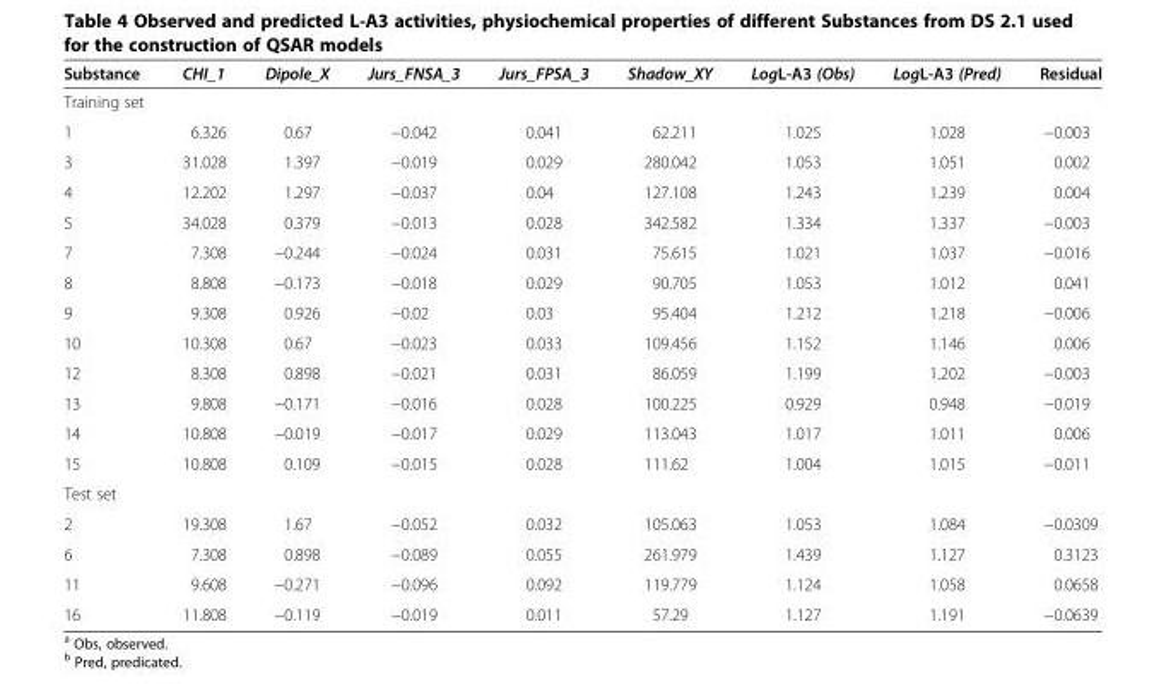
<table><thead><tr><td>Substance</td><td>CHI_1</td><td>Dipole_X</td><td>Jurs_FNSA_3</td><td>Jurs_FPSA_3</td><td>Shadow_XY</td><td>LogL-A3 (Obs)</td><td>LogL-A3 (Pred)</td><td>Residual</td></tr></thead><tbody><tr><td colspan="9">Training set</td></tr><tr><td>1</td><td>6.326</td><td>0.67</td><td>−0.042</td><td>0.041</td><td>62.211</td><td>1.025</td><td>1.028</td><td>−0.003</td></tr><tr><td>3</td><td>31.028</td><td>1.397</td><td>−0.019</td><td>0.029</td><td>280.042</td><td>1.053</td><td>1.051</td><td>0.002</td></tr><tr><td>4</td><td>12.202</td><td>1.297</td><td>−0.037</td><td>0.04</td><td>127.108</td><td>1.243</td><td>1.239</td><td>0.004</td></tr><tr><td>5</td><td>34.028</td><td>0.379</td><td>−0.013</td><td>0.028</td><td>342.582</td><td>1.334</td><td>1.337</td><td>−0.003</td></tr><tr><td>7</td><td>7.308</td><td>−0.244</td><td>−0.024</td><td>0.031</td><td>75.615</td><td>1.021</td><td>1.037</td><td>−0.016</td></tr><tr><td>8</td><td>8.808</td><td>−0.173</td><td>−0.018</td><td>0.029</td><td>90.705</td><td>1.053</td><td>1.012</td><td>0.041</td></tr><tr><td>9</td><td>9.308</td><td>0.926</td><td>−0.02</td><td>0.03</td><td>95.404</td><td>1.212</td><td>1.218</td><td>−0.006</td></tr><tr><td>10</td><td>10.308</td><td>0.67</td><td>−0.023</td><td>0.033</td><td>109.456</td><td>1.152</td><td>1.146</td><td>0.006</td></tr><tr><td>12</td><td>8.308</td><td>0.898</td><td>−0.021</td><td>0.031</td><td>86.059</td><td>1.199</td><td>1.202</td><td>−0.003</td></tr><tr><td>13</td><td>9.808</td><td>−0.171</td><td>−0.016</td><td>0.028</td><td>100.225</td><td>0.929</td><td>0.948</td><td>−0.019</td></tr><tr><td>14</td><td>10.808</td><td>−0.019</td><td>−0.017</td><td>0.029</td><td>113.043</td><td>1.017</td><td>1.011</td><td>0.006</td></tr><tr><td>15</td><td>10.808</td><td>0.109</td><td>−0.015</td><td>0.028</td><td>111.62</td><td>1.004</td><td>1.015</td><td>−0.011</td></tr><tr><td colspan="9">Test set</td></tr><tr><td>2</td><td>19.308</td><td>1.67</td><td>−0.052</td><td>0.032</td><td>105.063</td><td>1.053</td><td>1.084</td><td>−0.0309</td></tr><tr><td>6</td><td>7.308</td><td>0.898</td><td>−0.089</td><td>0.055</td><td>261.979</td><td>1.439</td><td>1.127</td><td>0.3123</td></tr><tr><td>11</td><td>9.608</td><td>−0.271</td><td>−0.096</td><td>0.092</td><td>119.779</td><td>1.124</td><td>1.058</td><td>0.0658</td></tr><tr><td>16</td><td>11.808</td><td>−0.119</td><td>−0.019</td><td>0.011</td><td>57.29</td><td>1.127</td><td>1.191</td><td>−0.0639</td></tr></tbody></table>